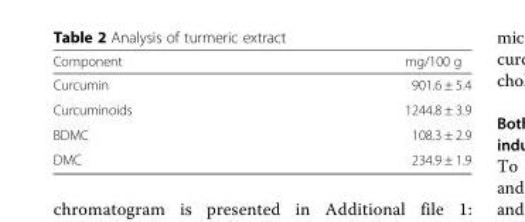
<table><thead><tr><td>Component</td><td>mg/100 g</td></tr></thead><tbody><tr><td>Curcumin</td><td>901.6 ± 5.4</td></tr><tr><td>Curcuminoids</td><td>1244.8 ± 3.9</td></tr><tr><td>BDMC</td><td>108.3 ± 2.9</td></tr><tr><td>DMC</td><td>234.9 ± 1.9</td></tr></tbody></table>